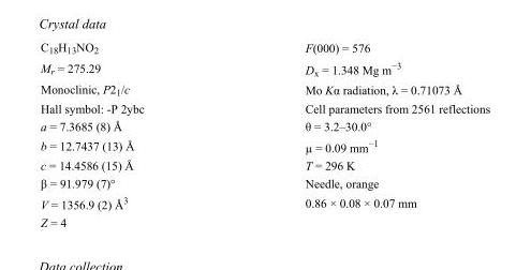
<table><tbody><tr><td>C<sub>18</sub>H<sub>13</sub>NO<sub>2</sub></td><td>F(000) = 576</td></tr><tr><td>M<sub>r</sub> = 275.29</td><td>D<sub>x</sub> = 1.348 Mg m<sup>−3</sup></td></tr><tr><td>Monoclinic, P2<sub>1</sub>/c</td><td>Mo Kα radiation, λ = 0.71073 Å</td></tr><tr><td>Hall symbol: -P 2ybc</td><td>Cell parameters from 2561 reflections</td></tr><tr><td>a = 7.3685 (8) Å</td><td>θ = 3.2–30.0°</td></tr><tr><td>b = 12.7437 (13) Å</td><td>µ = 0.09 mm<sup>−1</sup></td></tr><tr><td>c = 14.4586 (15) Å</td><td>T = 296 K</td></tr><tr><td>β = 91.979 (7)°</td><td>Needle, orange</td></tr><tr><td>V = 1356.9 (2) Å<sup>3</sup></td><td>0.86 × 0.08 × 0.07 mm</td></tr><tr><td>Z = 4</td><td></td></tr></tbody></table>